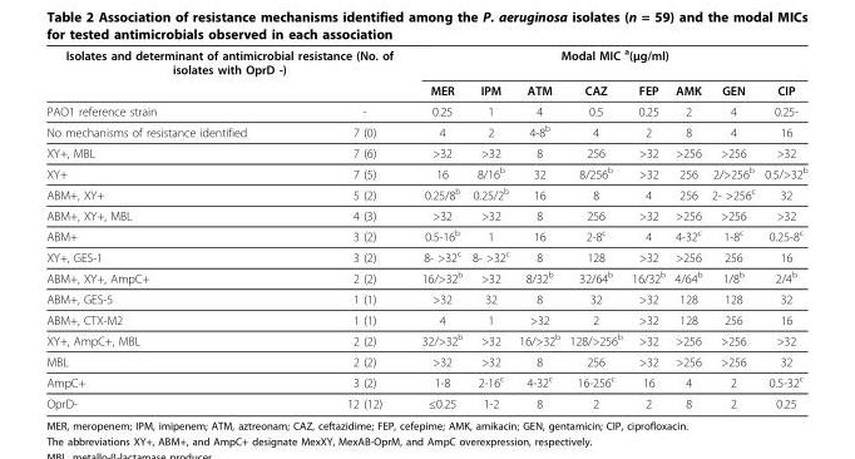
<table><thead><tr><td colspan="2">Isolates and determinant of antimicrobial resistance (No. of isolates with OprD -)</td><td colspan="8">Modal MIC <sup>a</sup>(μg/ml)</td></tr><tr><td></td><td></td><td>MER</td><td>IPM</td><td>ATM</td><td>CAZ</td><td>FEP</td><td>AMK</td><td>GEN</td><td>CIP</td></tr></thead><tbody><tr><td>PAO1 reference strain</td><td>-</td><td>0.25</td><td>1</td><td>4</td><td>0.5</td><td>0.25</td><td>2</td><td>4</td><td>0.25-</td></tr><tr><td>No mechanisms of resistance identified</td><td>7 (0)</td><td>4</td><td>2</td><td>4-8<sup>b</sup></td><td>4</td><td>2</td><td>8</td><td>4</td><td>16</td></tr><tr><td>XY+, MBL</td><td>7 (6)</td><td>&gt;32</td><td>&gt;32</td><td>8</td><td>256</td><td>&gt;32</td><td>&gt;256</td><td>&gt;256</td><td>&gt;32</td></tr><tr><td>XY+</td><td>7 (5)</td><td>16</td><td>8/16<sup>b</sup></td><td>32</td><td>8/256<sup>b</sup></td><td>&gt;32</td><td>256</td><td>2/&gt;256<sup>b</sup></td><td>0.5/&gt;32<sup>b</sup></td></tr><tr><td>ABM+, XY+</td><td>5 (2)</td><td>0.25/8<sup>b</sup></td><td>0.25/2<sup>b</sup></td><td>16</td><td>8</td><td>4</td><td>256</td><td>2- &gt;256<sup>c</sup></td><td>32</td></tr><tr><td>ABM+, XY+, MBL</td><td>4 (3)</td><td>&gt;32</td><td>&gt;32</td><td>8</td><td>256</td><td>&gt;32</td><td>&gt;256</td><td>&gt;256</td><td>&gt;32</td></tr><tr><td>ABM+</td><td>3 (2)</td><td>0.5-16<sup>b</sup></td><td>1</td><td>16</td><td>2-8<sup>c</sup></td><td>4</td><td>4-32<sup>c</sup></td><td>1-8<sup>c</sup></td><td>0.25-8<sup>c</sup></td></tr><tr><td>XY+, GES-1</td><td>3 (2)</td><td>8- &gt;32<sup>c</sup></td><td>8- &gt;32<sup>c</sup></td><td>8</td><td>128</td><td>&gt;32</td><td>&gt;256</td><td>256</td><td>16</td></tr><tr><td>ABM+, XY+, AmpC+</td><td>2 (2)</td><td>16/&gt;32<sup>b</sup></td><td>&gt;32</td><td>8/32<sup>b</sup></td><td>32/64<sup>b</sup></td><td>16/32<sup>b</sup></td><td>4/64<sup>b</sup></td><td>1/8<sup>b</sup></td><td>2/4<sup>b</sup></td></tr><tr><td>ABM+, GES-5</td><td>1 (1)</td><td>&gt;32</td><td>32</td><td>8</td><td>32</td><td>&gt;32</td><td>128</td><td>128</td><td>32</td></tr><tr><td>ABM+, CTX-M2</td><td>1 (1)</td><td>4</td><td>1</td><td>&gt;32</td><td>2</td><td>&gt;32</td><td>128</td><td>256</td><td>16</td></tr><tr><td>XY+, AmpC+, MBL</td><td>2 (2)</td><td>32/&gt;32<sup>b</sup></td><td>&gt;32</td><td>16/&gt;32<sup>b</sup></td><td>128/&gt;256<sup>b</sup></td><td>&gt;32</td><td>&gt;256</td><td>&gt;256</td><td>&gt;32</td></tr><tr><td>MBL</td><td>2 (2)</td><td>&gt;32</td><td>&gt;32</td><td>8</td><td>256</td><td>&gt;32</td><td>&gt;256</td><td>&gt;256</td><td>32</td></tr><tr><td>AmpC+</td><td>3 (2)</td><td>1-8</td><td>2-16<sup>c</sup></td><td>4-32<sup>c</sup></td><td>16-256<sup>c</sup></td><td>16</td><td>4</td><td>2</td><td>0.5-32<sup>c</sup></td></tr><tr><td>OprD-</td><td>12 (12)</td><td>≤0.25</td><td>1-2</td><td>8</td><td>2</td><td>2</td><td>8</td><td>2</td><td>0.25</td></tr></tbody></table>